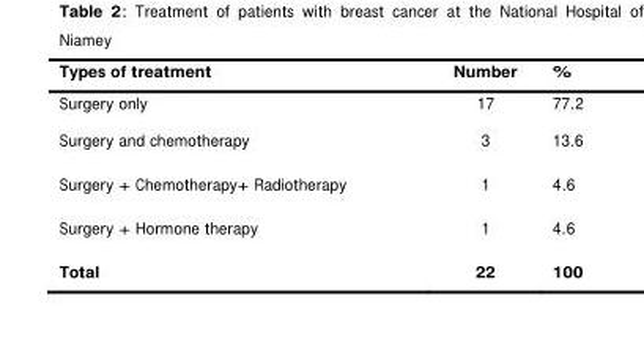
<table><thead><tr><td>Types of treatment</td><td>Number</td><td>%</td></tr></thead><tbody><tr><td>Surgery only</td><td>17</td><td>77.2</td></tr><tr><td>Surgery and chemotherapy</td><td>3</td><td>13.6</td></tr><tr><td>Surgery + Chemotherapy+ Radiotherapy</td><td>1</td><td>4.6</td></tr><tr><td>Surgery + Hormone therapy</td><td>1</td><td>4.6</td></tr><tr><td>Total</td><td>22</td><td>100</td></tr></tbody></table>